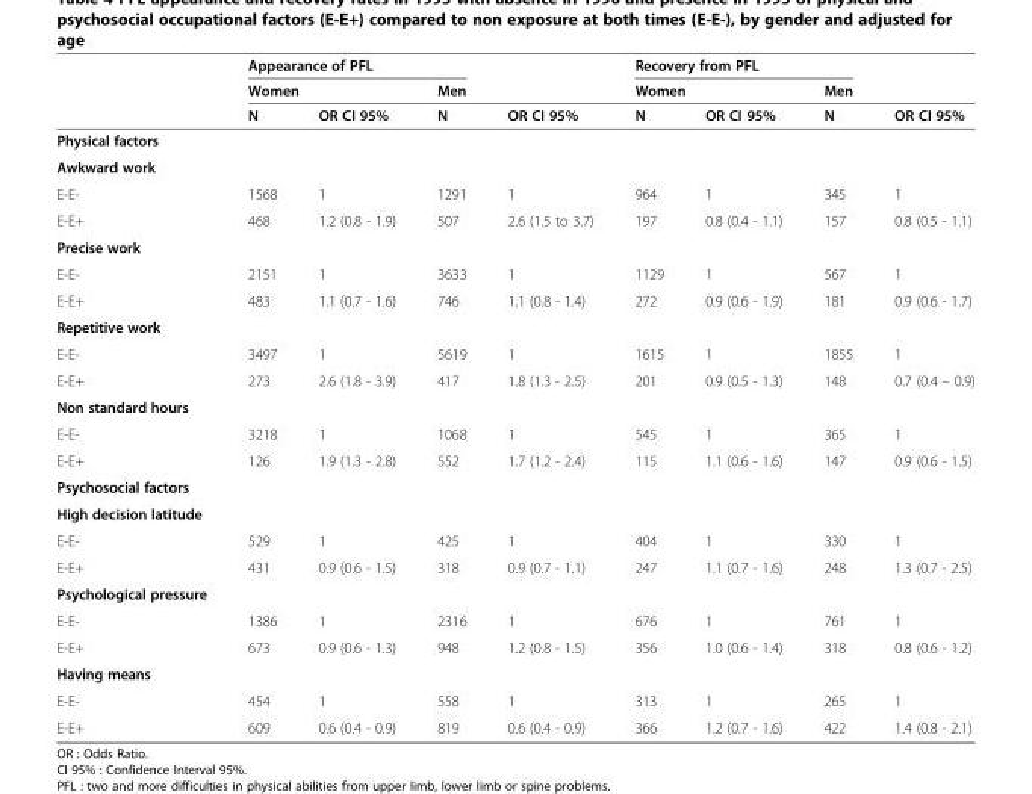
<table><thead><tr><td rowspan="3"></td><td colspan="3">Appearance of PFL</td><td></td><td colspan="3">Recovery from PFL</td><td></td></tr><tr><td colspan="2">Women</td><td colspan="2">Men</td><td colspan="2">Women</td><td colspan="2">Men</td></tr><tr><td>N</td><td>OR CI 95%</td><td>N</td><td>OR CI 95%</td><td>N</td><td>OR CI 95%</td><td>N</td><td>OR CI 95%</td></tr></thead><tbody><tr><td colspan="9">Physical factors</td></tr><tr><td colspan="9">Awkward work</td></tr><tr><td>E-E-</td><td>1568</td><td>1</td><td>1291</td><td>1</td><td>964</td><td>1</td><td>345</td><td>1</td></tr><tr><td>E-E+</td><td>468</td><td>1.2 (0.8 - 1.9)</td><td>507</td><td>2.6 (1.5 to 3.7)</td><td>197</td><td>0.8 (0.4 - 1.1)</td><td>157</td><td>0.8 (0.5 - 1.1)</td></tr><tr><td colspan="9">Precise work</td></tr><tr><td>E-E-</td><td>2151</td><td>1</td><td>3633</td><td>1</td><td>1129</td><td>1</td><td>567</td><td>1</td></tr><tr><td>E-E+</td><td>483</td><td>1.1 (0.7 - 1.6)</td><td>746</td><td>1.1 (0.8 - 1.4)</td><td>272</td><td>0.9 (0.6 - 1.9)</td><td>181</td><td>0.9 (0.6 - 1.7)</td></tr><tr><td colspan="9">Repetitive work</td></tr><tr><td>E-E-</td><td>3497</td><td>1</td><td>5619</td><td>1</td><td>1615</td><td>1</td><td>1855</td><td>1</td></tr><tr><td>E-E+</td><td>273</td><td>2.6 (1.8 - 3.9)</td><td>417</td><td>1.8 (1.3 - 2.5)</td><td>201</td><td>0.9 (0.5 - 1.3)</td><td>148</td><td>0.7 (0.4 – 0.9)</td></tr><tr><td colspan="9">Non standard hours</td></tr><tr><td>E-E-</td><td>3218</td><td>1</td><td>1068</td><td>1</td><td>545</td><td>1</td><td>365</td><td>1</td></tr><tr><td>E-E+</td><td>126</td><td>1.9 (1.3 - 2.8)</td><td>552</td><td>1.7 (1.2 - 2.4)</td><td>115</td><td>1.1 (0.6 - 1.6)</td><td>147</td><td>0.9 (0.6 - 1.5)</td></tr><tr><td colspan="9">Psychosocial factors</td></tr><tr><td colspan="9">High decision latitude</td></tr><tr><td>E-E-</td><td>529</td><td>1</td><td>425</td><td>1</td><td>404</td><td>1</td><td>330</td><td>1</td></tr><tr><td>E-E+</td><td>431</td><td>0.9 (0.6 - 1.5)</td><td>318</td><td>0.9 (0.7 - 1.1)</td><td>247</td><td>1.1 (0.7 - 1.6)</td><td>248</td><td>1.3 (0.7 - 2.5)</td></tr><tr><td colspan="9">Psychological pressure</td></tr><tr><td>E-E-</td><td>1386</td><td>1</td><td>2316</td><td>1</td><td>676</td><td>1</td><td>761</td><td>1</td></tr><tr><td>E-E+</td><td>673</td><td>0.9 (0.6 - 1.3)</td><td>948</td><td>1.2 (0.8 - 1.5)</td><td>356</td><td>1.0 (0.6 - 1.4)</td><td>318</td><td>0.8 (0.6 - 1.2)</td></tr><tr><td colspan="9">Having means</td></tr><tr><td>E-E-</td><td>454</td><td>1</td><td>558</td><td>1</td><td>313</td><td>1</td><td>265</td><td>1</td></tr><tr><td>E-E+</td><td>609</td><td>0.6 (0.4 - 0.9)</td><td>819</td><td>0.6 (0.4 - 0.9)</td><td>366</td><td>1.2 (0.7 - 1.6)</td><td>422</td><td>1.4 (0.8 - 2.1)</td></tr></tbody></table>